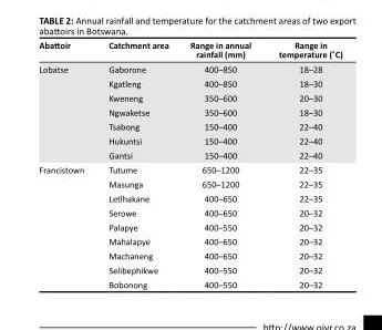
<table><thead><tr><td>Abattoir</td><td>Catchment area</td><td>Range in annual rainfall (mm)</td><td>Range in temperature (˚C)</td></tr></thead><tbody><tr><td rowspan="7">Lobatse</td><td>Gaborone</td><td>400–850</td><td>18–28</td></tr><tr><td>Kgatleng</td><td>400–850</td><td>18–30</td></tr><tr><td>Kweneng</td><td>350–600</td><td>20–30</td></tr><tr><td>Ngwaketse</td><td>350–600</td><td>18–30</td></tr><tr><td>Tsabong</td><td>150–400</td><td>22–40</td></tr><tr><td>Hukuntsi</td><td>150–400</td><td>22–40</td></tr><tr><td>Gantsi</td><td>150–400</td><td>22–40</td></tr><tr><td rowspan="9">Francistown</td><td>Tutume</td><td>650–1200</td><td>22–35</td></tr><tr><td>Masunga</td><td>650–1200</td><td>22–35</td></tr><tr><td>Letlhakane</td><td>400–650</td><td>22–35</td></tr><tr><td>Serowe</td><td>400–650</td><td>20–32</td></tr><tr><td>Palapye</td><td>400–550</td><td>20–32</td></tr><tr><td>Mahalapye</td><td>400–650</td><td>20–32</td></tr><tr><td>Machaneng</td><td>400–650</td><td>20–32</td></tr><tr><td>Selibephikwe</td><td>400–550</td><td>20–32</td></tr><tr><td>Bobonong</td><td>400–550</td><td>20–32</td></tr></tbody></table>